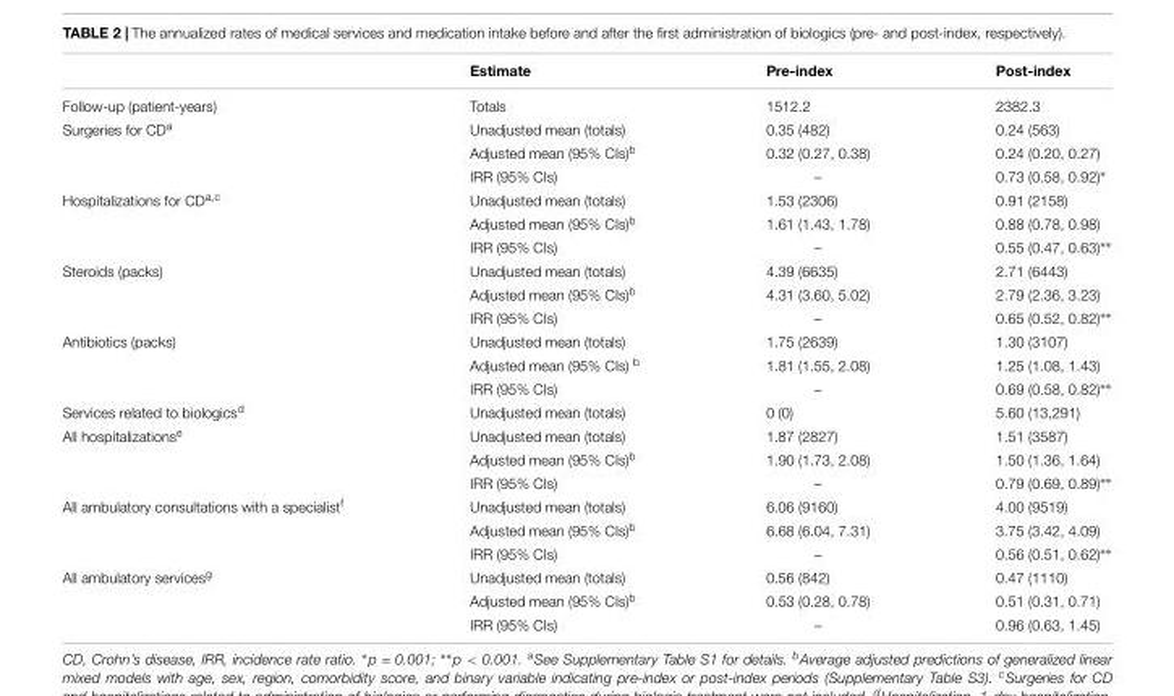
<table><thead><tr><td></td><td>Estimate</td><td>Pre-index</td><td>Post-index</td></tr></thead><tbody><tr><td>Follow-up (patient-years)</td><td>Totals</td><td>1512.2</td><td>2382.3</td></tr><tr><td rowspan="3">Surgeries for CD<sup>a</sup></td><td>Unadjusted mean (totals)</td><td>0.35 (482)</td><td>0.24 (563)</td></tr><tr><td>Adjusted mean (95% CIs)<sup>b</sup></td><td>0.32 (0.27, 0.38)</td><td>0.24 (0.20, 0.27)</td></tr><tr><td>IRR (95% CIs)</td><td>–</td><td>0.73 (0.58, 0.92)∗</td></tr><tr><td rowspan="3">Hospitalizations for CD<sup>a,c</sup></td><td>Unadjusted mean (totals)</td><td>1.53 (2306)</td><td>0.91 (2158)</td></tr><tr><td>Adjusted mean (95% CIs)<sup>b</sup></td><td>1.61 (1.43, 1.78)</td><td>0.88 (0.78, 0.98)</td></tr><tr><td>IRR (95% CIs)</td><td>–</td><td>0.55 (0.47, 0.63)∗∗</td></tr><tr><td rowspan="3">Steroids (packs)</td><td>Unadjusted mean (totals)</td><td>4.39 (6635)</td><td>2.71 (6443)</td></tr><tr><td>Adjusted mean (95% CIs)<sup>b</sup></td><td>4.31 (3.60, 5.02)</td><td>2.79 (2.36, 3.23)</td></tr><tr><td>IRR (95% CIs)</td><td>–</td><td>0.65 (0.52, 0.82)∗∗</td></tr><tr><td rowspan="3">Antibiotics (packs)</td><td>Unadjusted mean (totals)</td><td>1.75 (2639)</td><td>1.30 (3107)</td></tr><tr><td>Adjusted mean (95% CIs) <sup>b</sup></td><td>1.81 (1.55, 2.08)</td><td>1.25 (1.08, 1.43)</td></tr><tr><td>IRR (95% CIs)</td><td>–</td><td>0.69 (0.58, 0.82)∗∗</td></tr><tr><td>Services related to biologics<sup>d</sup></td><td>Unadjusted mean (totals)</td><td>0 (0)</td><td>5.60 (13,291)</td></tr><tr><td rowspan="3">All hospitalizations<sup>e</sup></td><td>Unadjusted mean (totals)</td><td>1.87 (2827)</td><td>1.51 (3587)</td></tr><tr><td>Adjusted mean (95% CIs)<sup>b</sup></td><td>1.90 (1.73, 2.08)</td><td>1.50 (1.36, 1.64)</td></tr><tr><td>IRR (95% CIs)</td><td>–</td><td>0.79 (0.69, 0.89)∗∗</td></tr><tr><td rowspan="3">All ambulatory consultations with a specialist<sup>f</sup></td><td>Unadjusted mean (totals)</td><td>6.06 (9160)</td><td>4.00 (9519)</td></tr><tr><td>Adjusted mean (95% CIs)<sup>b</sup></td><td>6.68 (6.04, 7.31)</td><td>3.75 (3.42, 4.09)</td></tr><tr><td>IRR (95% CIs)</td><td>–</td><td>0.56 (0.51, 0.62)∗∗</td></tr><tr><td rowspan="3">All ambulatory services<sup>g</sup></td><td>Unadjusted mean (totals)</td><td>0.56 (842)</td><td>0.47 (1110)</td></tr><tr><td>Adjusted mean (95% CIs)<sup>b</sup></td><td>0.53 (0.28, 0.78)</td><td>0.51 (0.31, 0.71)</td></tr><tr><td>IRR (95% CIs)</td><td>–</td><td>0.96 (0.63, 1.45)</td></tr></tbody></table>